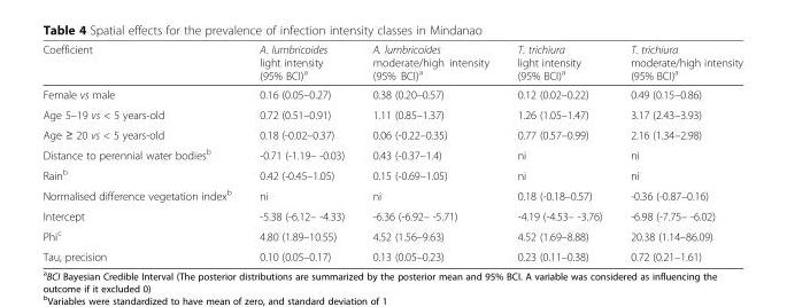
<table><thead><tr><td>Coefficient</td><td>A. lumbricoides light intensity (95% BCI)<sup>a</sup></td><td>A. lumbricoides moderate/high intensity (95% BCI)<sup>a</sup></td><td>T. trichiura light intensity (95% BCI)<sup>a</sup></td><td>T. trichiura moderate/high intensity (95% BCI)<sup>a</sup></td></tr></thead><tbody><tr><td>Female vs male</td><td>0.16 (0.05–0.27)</td><td>0.38 (0.20–0.57)</td><td>0.12 (0.02–0.22)</td><td>0.49 (0.15–0.86)</td></tr><tr><td>Age 5–19 vs &lt; 5 years-old</td><td>0.72 (0.51–0.91)</td><td>1.11 (0.85–1.37)</td><td>1.26 (1.05–1.47)</td><td>3.17 (2.43–3.93)</td></tr><tr><td>Age ≥ 20 vs &lt; 5 years-old</td><td>0.18 (-0.02–0.37)</td><td>0.06 (-0.22–0.35)</td><td>0.77 (0.57–0.99)</td><td>2.16 (1.34–2.98)</td></tr><tr><td>Distance to perennial water bodies<sup>b</sup></td><td>-0.71 (-1.19– -0.03)</td><td>0.43 (-0.37–1.4)</td><td>ni</td><td>ni</td></tr><tr><td>Rain<sup>b</sup></td><td>0.42 (-0.45–1.05)</td><td>0.15 (-0.69–1.05)</td><td>ni</td><td>ni</td></tr><tr><td>Normalised difference vegetation index<sup>b</sup></td><td>ni</td><td>ni</td><td>0.18 (-0.18–0.57)</td><td>-0.36 (-0.87–0.16)</td></tr><tr><td>Intercept</td><td>-5.38 (-6.12– -4.33)</td><td>-6.36 (-6.92– -5.71)</td><td>-4.19 (-4.53– -3.76)</td><td>-6.98 (-7.75– -6.02)</td></tr><tr><td>Phi<sup>c</sup></td><td>4.80 (1.89–10.55)</td><td>4.52 (1.56–9.63)</td><td>4.52 (1.69–8.88)</td><td>20.38 (1.14–86.09)</td></tr><tr><td>Tau, precision</td><td>0.10 (0.05–0.17)</td><td>0.13 (0.05–0.23)</td><td>0.23 (0.11–0.38)</td><td>0.72 (0.21–1.61)</td></tr></tbody></table>